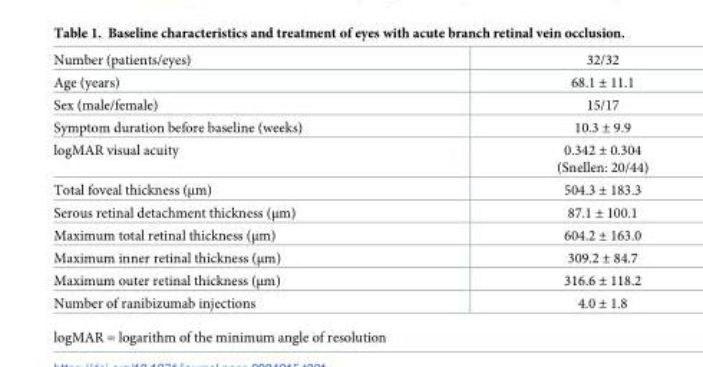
<table><tbody><tr><td>Number (patients/eyes)</td><td>32/32</td></tr><tr><td>Age (years)</td><td>68.1 ± 11.1</td></tr><tr><td>Sex (male/female)</td><td>15/17</td></tr><tr><td>Symptom duration before baseline (weeks)</td><td>10.3 ± 9.9</td></tr><tr><td>logMAR visual acuity</td><td>0.342 ± 0.304 (Snellen: 20/44)</td></tr><tr><td>Total foveal thickness (μm)</td><td>504.3 ± 183.3</td></tr><tr><td>Serous retinal detachment thickness (μm)</td><td>87.1 ± 100.1</td></tr><tr><td>Maximum total retinal thickness (μm)</td><td>604.2 ± 163.0</td></tr><tr><td>Maximum inner retinal thickness (μm)</td><td>309.2 ± 84.7</td></tr><tr><td>Maximum outer retinal thickness (μm)</td><td>316.6 ± 118.2</td></tr><tr><td>Number of ranibizumab injections</td><td>4.0 ± 1.8</td></tr></tbody></table>